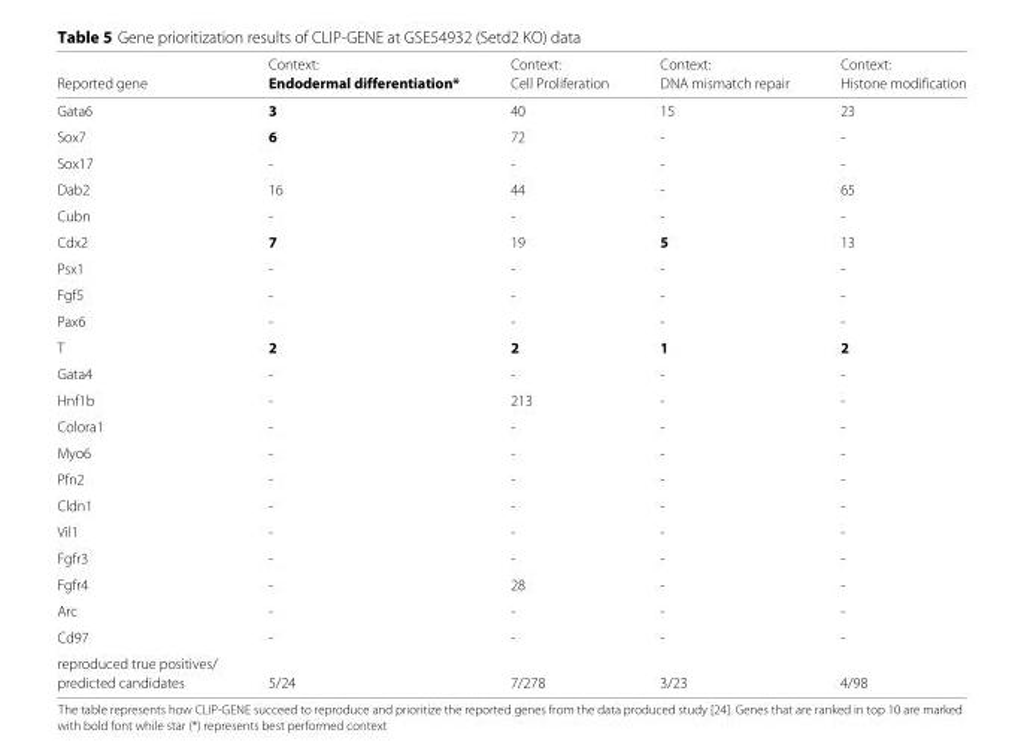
<table><thead><tr><td rowspan="2">Reported gene</td><td rowspan="2">Context: Endodermal differentiation*</td><td rowspan="2">Context: Cell Proliferation</td><td rowspan="2">Context: DNA mismatch repair</td><td rowspan="2">Context: Histone modification</td></tr><tr></tr></thead><tbody><tr><td>Gata6</td><td>3</td><td>40</td><td>15</td><td>23</td></tr><tr><td>Sox7</td><td>6</td><td>72</td><td>-</td><td>-</td></tr><tr><td>Sox17</td><td>-</td><td>-</td><td>-</td><td>-</td></tr><tr><td>Dab2</td><td>16</td><td>44</td><td>-</td><td>65</td></tr><tr><td>Cubn</td><td>-</td><td>-</td><td>-</td><td>-</td></tr><tr><td>Cdx2</td><td>7</td><td>19</td><td>5</td><td>13</td></tr><tr><td>Psx1</td><td>-</td><td>-</td><td>-</td><td>-</td></tr><tr><td>Fgf5</td><td>-</td><td>-</td><td>-</td><td>-</td></tr><tr><td>Pax6</td><td>-</td><td>-</td><td>-</td><td>-</td></tr><tr><td>T</td><td>2</td><td>2</td><td>1</td><td>2</td></tr><tr><td>Gata4</td><td>-</td><td>-</td><td>-</td><td>-</td></tr><tr><td>Hnf1b</td><td>-</td><td>213</td><td>-</td><td>-</td></tr><tr><td>Colora1</td><td>-</td><td>-</td><td>-</td><td>-</td></tr><tr><td>Myo6</td><td>-</td><td>-</td><td>-</td><td>-</td></tr><tr><td>Pfn2</td><td>-</td><td>-</td><td>-</td><td>-</td></tr><tr><td>Cldn1</td><td>-</td><td>-</td><td>-</td><td>-</td></tr><tr><td>Vil1</td><td>-</td><td>-</td><td>-</td><td>-</td></tr><tr><td>Fgfr3</td><td>-</td><td>-</td><td>-</td><td>-</td></tr><tr><td>Fgfr4</td><td>-</td><td>28</td><td>-</td><td>-</td></tr><tr><td>Arc</td><td>-</td><td>-</td><td>-</td><td>-</td></tr><tr><td>Cd97</td><td>-</td><td>-</td><td>-</td><td>-</td></tr><tr><td colspan="5">reproduced true positives/</td></tr><tr><td>predicted candidates</td><td>5/24</td><td>7/278</td><td>3/23</td><td>4/98</td></tr></tbody></table>